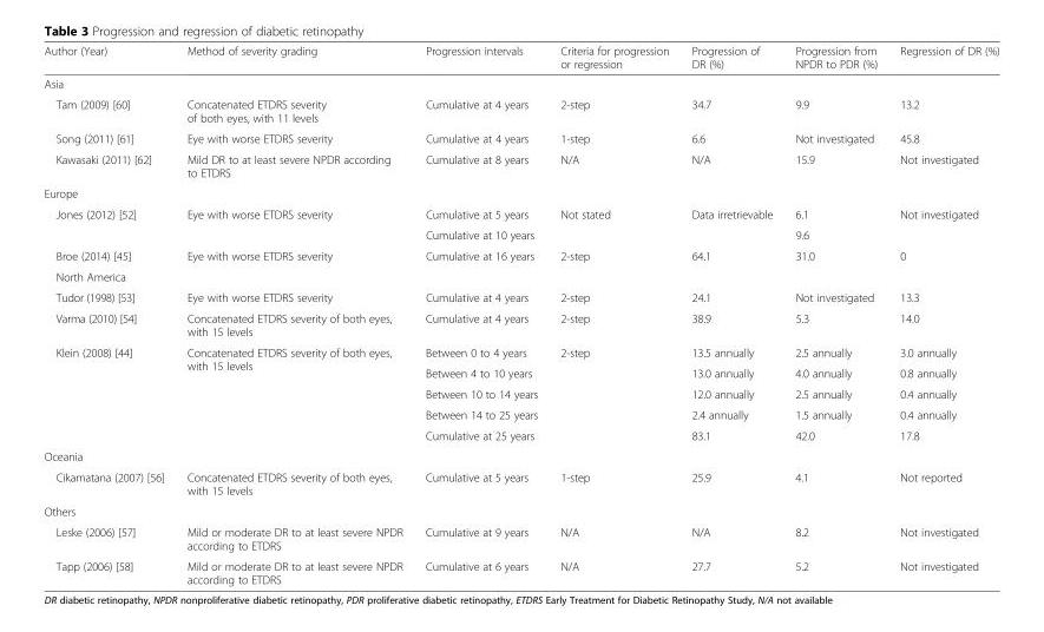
<table><thead><tr><td>Author (Year)</td><td>Method of severity grading</td><td>Progression intervals</td><td>Criteria for progression or regression</td><td>Progression of DR (%)</td><td>Progression from NPDR to PDR (%)</td><td>Regression of DR (%)</td></tr></thead><tbody><tr><td colspan="7">Asia</td></tr><tr><td>Tam (2009) [60]</td><td>Concatenated ETDRS severity of both eyes, with 11 levels</td><td>Cumulative at 4 years</td><td>2-step</td><td>34.7</td><td>9.9</td><td>13.2</td></tr><tr><td>Song (2011) [61]</td><td>Eye with worse ETDRS severity</td><td>Cumulative at 4 years</td><td>1-step</td><td>6.6</td><td>Not investigated</td><td>45.8</td></tr><tr><td>Kawasaki (2011) [62]</td><td>Mild DR to at least severe NPDR according to ETDRS</td><td>Cumulative at 8 years</td><td>N/A</td><td>N/A</td><td>15.9</td><td>Not investigated</td></tr><tr><td colspan="7">Europe</td></tr><tr><td rowspan="2">Jones (2012) [52]</td><td rowspan="2">Eye with worse ETDRS severity</td><td>Cumulative at 5 years</td><td rowspan="2">Not stated</td><td rowspan="2">Data irretrievable</td><td>6.1</td><td rowspan="2">Not investigated</td></tr><tr><td>Cumulative at 10 years</td><td>9.6</td></tr><tr><td>Broe (2014) [45]</td><td>Eye with worse ETDRS severity</td><td>Cumulative at 16 years</td><td>2-step</td><td>64.1</td><td>31.0</td><td>0</td></tr><tr><td colspan="7">North America</td></tr><tr><td>Tudor (1998) [53]</td><td>Eye with worse ETDRS severity</td><td>Cumulative at 4 years</td><td>2-step</td><td>24.1</td><td>Not investigated</td><td>13.3</td></tr><tr><td>Varma (2010) [54]</td><td>Concatenated ETDRS severity of both eyes, with 15 levels</td><td>Cumulative at 4 years</td><td>2-step</td><td>38.9</td><td>5.3</td><td>14.0</td></tr><tr><td rowspan="5">Klein (2008) [44]</td><td rowspan="5">Concatenated ETDRS severity of both eyes, with 15 levels</td><td>Between 0 to 4 years</td><td rowspan="4">2-step</td><td>13.5 annually</td><td>2.5 annually</td><td>3.0 annually</td></tr><tr><td>Between 4 to 10 years</td><td>13.0 annually</td><td>4.0 annually</td><td>0.8 annually</td></tr><tr><td>Between 10 to 14 years</td><td>12.0 annually</td><td>2.5 annually</td><td>0.4 annually</td></tr><tr><td>Between 14 to 25 years</td><td>2.4 annually</td><td>1.5 annually</td><td>0.4 annually</td></tr><tr><td>Cumulative at 25 years</td><td></td><td>83.1</td><td>42.0</td><td>17.8</td></tr><tr><td colspan="7">Oceania</td></tr><tr><td>Cikamatana (2007) [56]</td><td>Concatenated ETDRS severity of both eyes, with 15 levels</td><td>Cumulative at 5 years</td><td>1-step</td><td>25.9</td><td>4.1</td><td>Not reported</td></tr><tr><td colspan="7">Others</td></tr><tr><td>Leske (2006) [57]</td><td>Mild or moderate DR to at least severe NPDR according to ETDRS</td><td>Cumulative at 9 years</td><td>N/A</td><td>N/A</td><td>8.2</td><td>Not investigated</td></tr><tr><td>Tapp (2006) [58]</td><td>Mild or moderate DR to at least severe NPDR according to ETDRS</td><td>Cumulative at 6 years</td><td>N/A</td><td>27.7</td><td>5.2</td><td>Not investigated</td></tr></tbody></table>